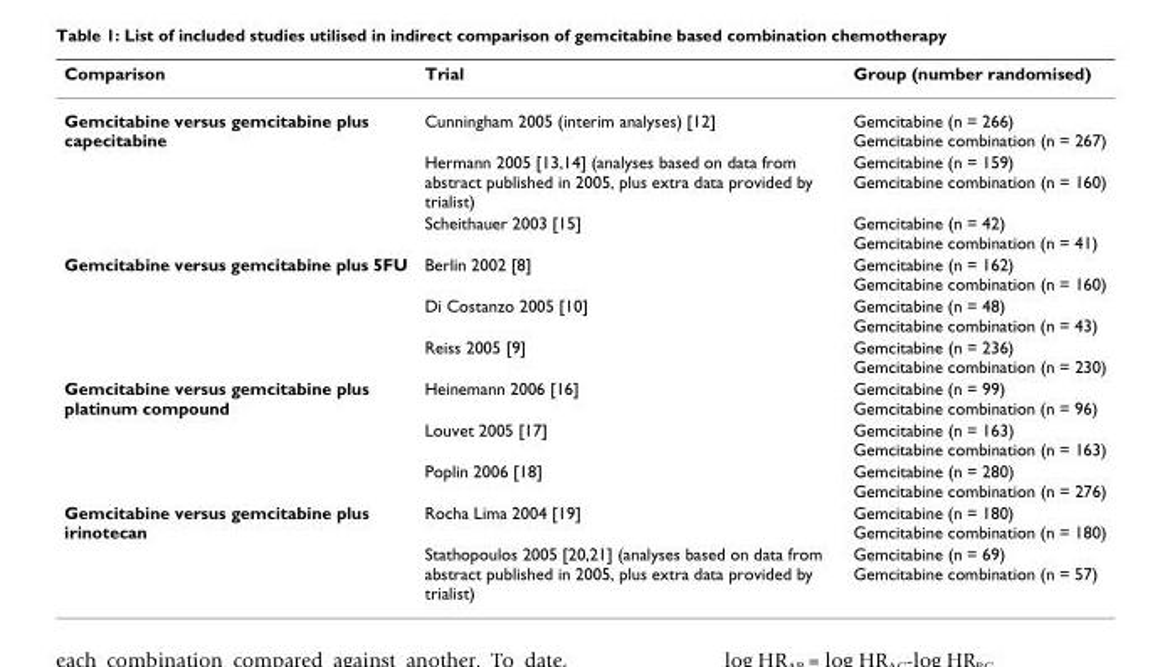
<table><thead><tr><td>Comparison</td><td>Trial</td><td>Group (number randomised)</td></tr></thead><tbody><tr><td rowspan="3">Gemcitabine versus gemcitabine plus capecitabine</td><td>Cunningham 2005 (interim analyses) [12]</td><td>Gemcitabine (n = 266) Gemcitabine combination (n = 267)</td></tr><tr><td>Hermann 2005 [13,14] (analyses based on data from abstract published in 2005, plus extra data provided by trialist)</td><td>Gemcitabine (n = 159) Gemcitabine combination (n = 160)</td></tr><tr><td>Scheithauer 2003 [15]</td><td>Gemcitabine (n = 42) Gemcitabine combination (n = 41)</td></tr><tr><td rowspan="3">Gemcitabine versus gemcitabine plus 5FU</td><td>Berlin 2002 [8]</td><td>Gemcitabine (n = 162) Gemcitabine combination (n = 160)</td></tr><tr><td>Di Costanzo 2005 [10]</td><td>Gemcitabine (n = 48) Gemcitabine combination (n = 43)</td></tr><tr><td>Reiss 2005 [9]</td><td>Gemcitabine (n = 236) Gemcitabine combination (n = 230)</td></tr><tr><td rowspan="3">Gemcitabine versus gemcitabine plus platinum compound</td><td>Heinemann 2006 [16]</td><td>Gemcitabine (n = 99) Gemcitabine combination (n = 96)</td></tr><tr><td>Louvet 2005 [17]</td><td>Gemcitabine (n = 163) Gemcitabine combination (n = 163)</td></tr><tr><td>Poplin 2006 [18]</td><td>Gemcitabine (n = 280) Gemcitabine combination (n = 276)</td></tr><tr><td rowspan="2">Gemcitabine versus gemcitabine plus irinotecan</td><td>Rocha Lima 2004 [19]</td><td>Gemcitabine (n = 180) Gemcitabine combination (n = 180)</td></tr><tr><td>Stathopoulos 2005 [20,21] (analyses based on data from abstract published in 2005, plus extra data provided by trialist)</td><td>Gemcitabine (n = 69) Gemcitabine combination (n = 57)</td></tr></tbody></table>